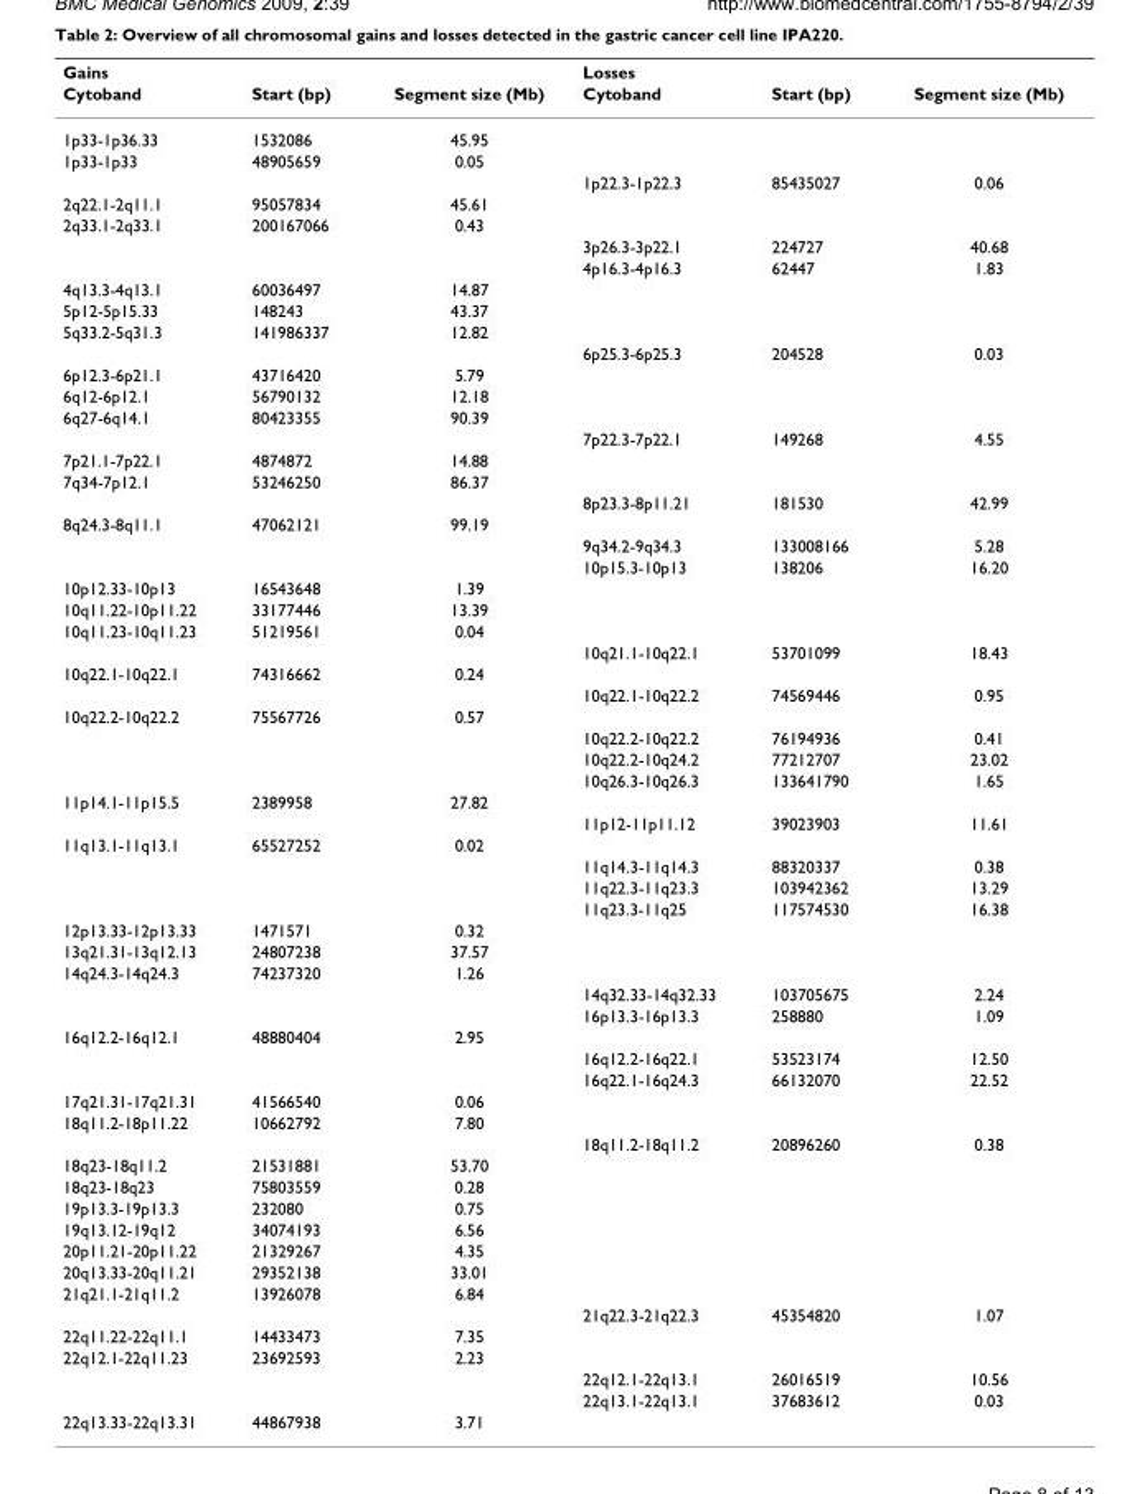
<table><thead><tr><td rowspan="2">Gains Cytoband</td><td rowspan="2">Start (bp)</td><td rowspan="2">Segment size (Mb)</td><td rowspan="2">Losses Cytoband</td><td rowspan="2">Start (bp)</td><td rowspan="2">Segment size (Mb)</td></tr><tr></tr></thead><tbody><tr><td>1p33-1p36.33</td><td>1532086</td><td>45.95</td><td></td><td></td><td></td></tr><tr><td rowspan="2">1p33-1p33</td><td>48905659</td><td>0.05</td><td></td><td></td><td></td></tr><tr><td></td><td></td><td>1p22.3-1p22.3</td><td>85435027</td><td>0.06</td></tr><tr><td>2q22.1-2q11.1</td><td>95057834</td><td>45.61</td><td></td><td></td><td></td></tr><tr><td rowspan="3">2q33.1-2q33.1</td><td>200167066</td><td>0.43</td><td></td><td></td><td></td></tr><tr><td></td><td></td><td>3p26.3-3p22.1</td><td>224727</td><td>40.68</td></tr><tr><td></td><td></td><td>4p16.3-4p16.3</td><td>62447</td><td>1.83</td></tr><tr><td>4q13.3-4q13.1</td><td>60036497</td><td>14.87</td><td></td><td></td><td></td></tr><tr><td>5p12-5p15.33</td><td>148243</td><td>43.37</td><td></td><td></td><td></td></tr><tr><td rowspan="2">5q33.2-5q31.3</td><td>141986337</td><td>12.82</td><td></td><td></td><td></td></tr><tr><td></td><td></td><td>6p25.3-6p25.3</td><td>204528</td><td>0.03</td></tr><tr><td>6p12.3-6p21.1</td><td>43716420</td><td>5.79</td><td></td><td></td><td></td></tr><tr><td>6q12-6p12.1</td><td>56790132</td><td>12.18</td><td></td><td></td><td></td></tr><tr><td rowspan="2">6q27-6q14.1</td><td>80423355</td><td>90.39</td><td></td><td></td><td></td></tr><tr><td></td><td></td><td>7p22.3-7p22.1</td><td>149268</td><td>4.55</td></tr><tr><td>7p21.1-7p22.1</td><td>4874872</td><td>14.88</td><td></td><td></td><td></td></tr><tr><td rowspan="2">7q34-7p12.1</td><td>53246250</td><td>86.37</td><td></td><td></td><td></td></tr><tr><td></td><td></td><td>8p23.3-8p11.21</td><td>181530</td><td>42.99</td></tr><tr><td rowspan="3">8q24.3-8q11.1</td><td>47062121</td><td>99.19</td><td></td><td></td><td></td></tr><tr><td></td><td></td><td>9q34.2-9q34.3</td><td>133008166</td><td>5.28</td></tr><tr><td></td><td></td><td>10p15.3-10p13</td><td>138206</td><td>16.20</td></tr><tr><td>10p12.33-10p13</td><td>16543648</td><td>1.39</td><td></td><td></td><td></td></tr><tr><td>10q11.22-10p11.22</td><td>33177446</td><td>13.39</td><td></td><td></td><td></td></tr><tr><td rowspan="2">10q11.23-10q11.23</td><td>51219561</td><td>0.04</td><td></td><td></td><td></td></tr><tr><td></td><td></td><td>10q21.1-10q22.1</td><td>53701099</td><td>18.43</td></tr><tr><td rowspan="2">10q22.1-10q22.1</td><td>74316662</td><td>0.24</td><td></td><td></td><td></td></tr><tr><td></td><td></td><td>10q22.1-10q22.2</td><td>74569446</td><td>0.95</td></tr><tr><td rowspan="4">10q22.2-10q22.2</td><td>75567726</td><td>0.57</td><td></td><td></td><td></td></tr><tr><td></td><td></td><td>10q22.2-10q22.2</td><td>76194936</td><td>0.41</td></tr><tr><td></td><td></td><td>10q22.2-10q24.2</td><td>77212707</td><td>23.02</td></tr><tr><td></td><td></td><td>10q26.3-10q26.3</td><td>133641790</td><td>1.65</td></tr><tr><td rowspan="2">11p14.1-11p15.5</td><td>2389958</td><td>27.82</td><td></td><td></td><td></td></tr><tr><td></td><td></td><td>11p12-11p11.12</td><td>39023903</td><td>11.61</td></tr><tr><td rowspan="4">11q13.1-11q13.1</td><td>65527252</td><td>0.02</td><td></td><td></td><td></td></tr><tr><td></td><td></td><td>11q14.3-11q14.3</td><td>88320337</td><td>0.38</td></tr><tr><td></td><td></td><td>11q22.3-11q23.3</td><td>103942362</td><td>13.29</td></tr><tr><td></td><td></td><td>11q23.3-11q25</td><td>117574530</td><td>16.38</td></tr><tr><td>12p13.33-12p13.33</td><td>1471571</td><td>0.32</td><td></td><td></td><td></td></tr><tr><td>13q21.31-13q12.13</td><td>24807238</td><td>37.57</td><td></td><td></td><td></td></tr><tr><td rowspan="3">14q24.3-14q24.3</td><td>74237320</td><td>1.26</td><td></td><td></td><td></td></tr><tr><td></td><td></td><td>14q32.33-14q32.33</td><td>103705675</td><td>2.24</td></tr><tr><td></td><td></td><td>16p13.3-16p13.3</td><td>258880</td><td>1.09</td></tr><tr><td rowspan="3">16q12.2-16q12.1</td><td>48880404</td><td>2.95</td><td></td><td></td><td></td></tr><tr><td></td><td></td><td>16q12.2-16q22.1</td><td>53523174</td><td>12.50</td></tr><tr><td></td><td></td><td>16q22.1-16q24.3</td><td>66132070</td><td>22.52</td></tr><tr><td>17q21.31-17q21.31</td><td>41566540</td><td>0.06</td><td></td><td></td><td></td></tr><tr><td rowspan="2">18q11.2-18p11.22</td><td>10662792</td><td>7.80</td><td></td><td></td><td></td></tr><tr><td></td><td></td><td>18q11.2-18q11.2</td><td>20896260</td><td>0.38</td></tr><tr><td>18q23-18q11.2</td><td>21531881</td><td>53.70</td><td></td><td></td><td></td></tr><tr><td>18q23-18q23</td><td>75803559</td><td>0.28</td><td></td><td></td><td></td></tr><tr><td>19p13.3-19p13.3</td><td>232080</td><td>0.75</td><td></td><td></td><td></td></tr><tr><td>19q13.12-19q12</td><td>34074193</td><td>6.56</td><td></td><td></td><td></td></tr><tr><td>20p11.21-20p11.22</td><td>21329267</td><td>4.35</td><td></td><td></td><td></td></tr><tr><td>20q13.33-20q11.21</td><td>29352138</td><td>33.01</td><td></td><td></td><td></td></tr><tr><td rowspan="2">21q21.1-21q11.2</td><td>13926078</td><td>6.84</td><td></td><td></td><td></td></tr><tr><td></td><td></td><td>21q22.3-21q22.3</td><td>45354820</td><td>1.07</td></tr><tr><td>22q11.22-22q11.1</td><td>14433473</td><td>7.35</td><td></td><td></td><td></td></tr><tr><td rowspan="3">22q12.1-22q11.23</td><td>23692593</td><td>2.23</td><td></td><td></td><td></td></tr><tr><td></td><td></td><td>22q12.1-22q13.1</td><td>26016519</td><td>10.56</td></tr><tr><td></td><td></td><td>22q13.1-22q13.1</td><td>37683612</td><td>0.03</td></tr><tr><td>22q13.33-22q13.31</td><td>44867938</td><td>3.71</td><td></td><td></td><td></td></tr></tbody></table>